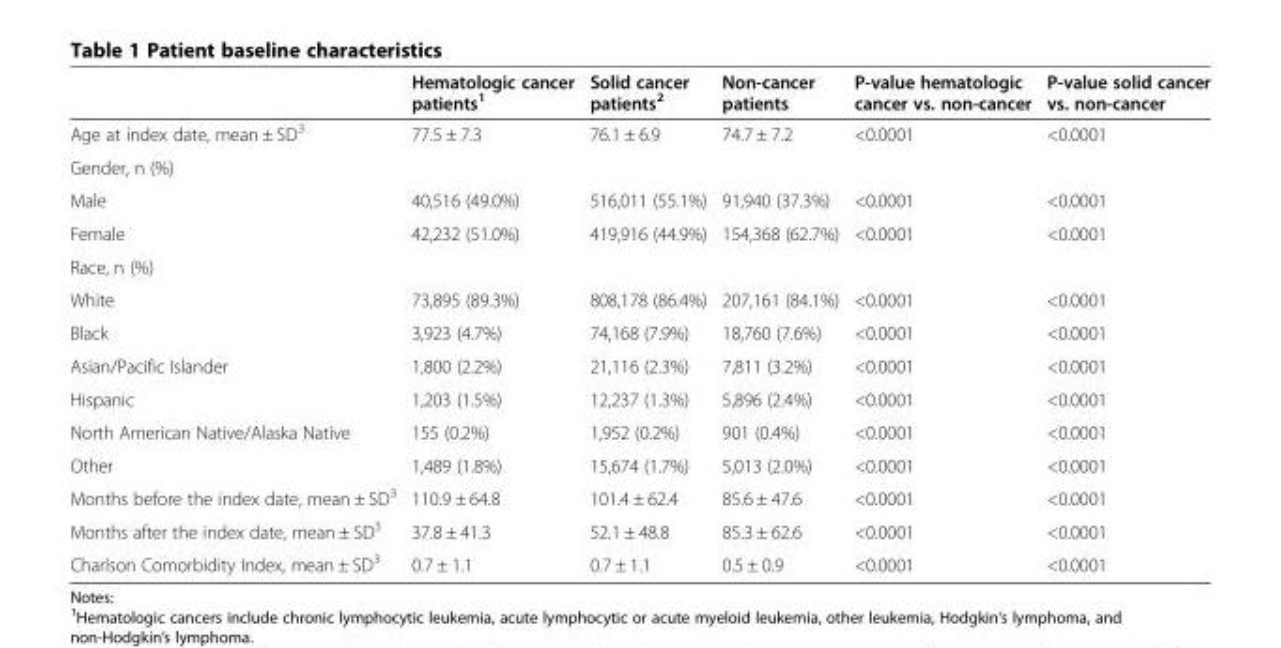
<table><thead><tr><td></td><td>Hematologic cancer patients<sup>1</sup></td><td>Solid cancer patients<sup>2</sup></td><td>Non-cancer patients</td><td>P-value hematologic cancer vs. non-cancer</td><td>P-value solid cancer vs. non-cancer</td></tr></thead><tbody><tr><td>Age at index date, mean ± SD<sup>3</sup></td><td>77.5 ± 7.3</td><td>76.1 ± 6.9</td><td>74.7 ± 7.2</td><td>&lt;0.0001</td><td>&lt;0.0001</td></tr><tr><td colspan="6">Gender, n (%)</td></tr><tr><td>Male</td><td>40,516 (49.0%)</td><td>516,011 (55.1%)</td><td>91,940 (37.3%)</td><td>&lt;0.0001</td><td>&lt;0.0001</td></tr><tr><td>Female</td><td>42,232 (51.0%)</td><td>419,916 (44.9%)</td><td>154,368 (62.7%)</td><td>&lt;0.0001</td><td>&lt;0.0001</td></tr><tr><td colspan="6">Race, n (%)</td></tr><tr><td>White</td><td>73,895 (89.3%)</td><td>808,178 (86.4%)</td><td>207,161 (84.1%)</td><td>&lt;0.0001</td><td>&lt;0.0001</td></tr><tr><td>Black</td><td>3,923 (4.7%)</td><td>74,168 (7.9%)</td><td>18,760 (7.6%)</td><td>&lt;0.0001</td><td>&lt;0.0001</td></tr><tr><td>Asian/Pacific Islander</td><td>1,800 (2.2%)</td><td>21,116 (2.3%)</td><td>7,811 (3.2%)</td><td>&lt;0.0001</td><td>&lt;0.0001</td></tr><tr><td>Hispanic</td><td>1,203 (1.5%)</td><td>12,237 (1.3%)</td><td>5,896 (2.4%)</td><td>&lt;0.0001</td><td>&lt;0.0001</td></tr><tr><td>North American Native/Alaska Native</td><td>155 (0.2%)</td><td>1,952 (0.2%)</td><td>901 (0.4%)</td><td>&lt;0.0001</td><td>&lt;0.0001</td></tr><tr><td>Other</td><td>1,489 (1.8%)</td><td>15,674 (1.7%)</td><td>5,013 (2.0%)</td><td>&lt;0.0001</td><td>&lt;0.0001</td></tr><tr><td>Months before the index date, mean ± SD<sup>3</sup></td><td>110.9 ± 64.8</td><td>101.4 ± 62.4</td><td>85.6 ± 47.6</td><td>&lt;0.0001</td><td>&lt;0.0001</td></tr><tr><td>Months after the index date, mean ± SD<sup>3</sup></td><td>37.8 ± 41.3</td><td>52.1 ± 48.8</td><td>85.3 ± 62.6</td><td>&lt;0.0001</td><td>&lt;0.0001</td></tr><tr><td>Charlson Comorbidity Index, mean ± SD<sup>3</sup></td><td>0.7 ± 1.1</td><td>0.7 ± 1.1</td><td>0.5 ± 0.9</td><td>&lt;0.0001</td><td>&lt;0.0001</td></tr></tbody></table>